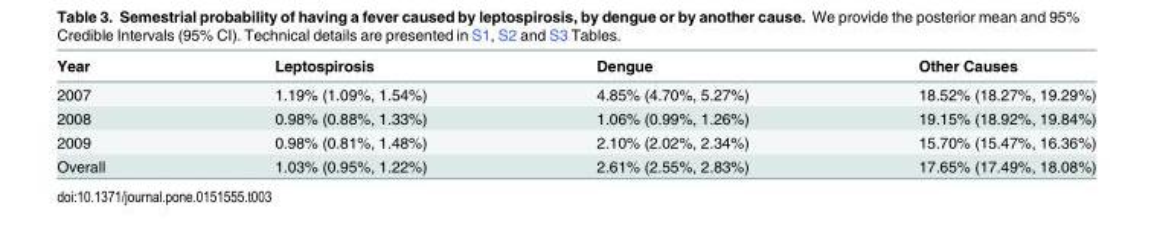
<table><thead><tr><td>Year</td><td>Leptospirosis</td><td>Dengue</td><td>Other Causes</td></tr></thead><tbody><tr><td>2007</td><td>1.19% (1.09%, 1.54%)</td><td>4.85% (4.70%, 5.27%)</td><td>18.52% (18.27%, 19.29%)</td></tr><tr><td>2008</td><td>0.98% (0.88%, 1.33%)</td><td>1.06% (0.99%, 1.26%)</td><td>19.15% (18.92%, 19.84%)</td></tr><tr><td>2009</td><td>0.98% (0.81%, 1.48%)</td><td>2.10% (2.02%, 2.34%)</td><td>15.70% (15.47%, 16.36%)</td></tr><tr><td>Overall</td><td>1.03% (0.95%, 1.22%)</td><td>2.61% (2.55%, 2.83%)</td><td>17.65% (17.49%, 18.08%)</td></tr></tbody></table>